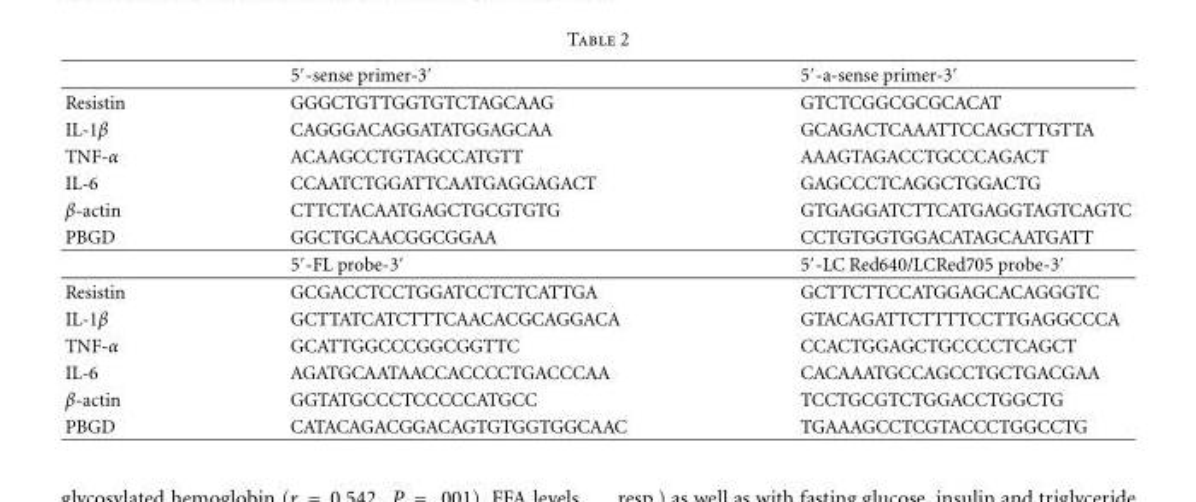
<table><thead><tr><td></td><td>5′-sense primer-3′</td><td>5′-a-sense primer-3′</td></tr></thead><tbody><tr><td>Resistin</td><td>GGGCTGTTGGTGTCTAGCAAG</td><td>GTCTCGGCGCGCACAT</td></tr><tr><td>IL-1β</td><td>CAGGGACAGGATATGGAGCAA</td><td>GCAGACTCAAATTCCAGCTTGTTA</td></tr><tr><td>TNF-α</td><td>ACAAGCCTGTAGCCATGTT</td><td>AAAGTAGACCTGCCCAGACT</td></tr><tr><td>IL-6</td><td>CCAATCTGGATTCAATGAGGAGACT</td><td>GAGCCCTCAGGCTGGACTG</td></tr><tr><td>β-actin</td><td>CTTCTACAATGAGCTGCGTGTG</td><td>GTGAGGATCTTCATGAGGTAGTCAGTC</td></tr><tr><td rowspan="2">PBGD</td><td>GGCTGCAACGGCGGAA</td><td>CCTGTGGTGGACATAGCAATGATT</td></tr><tr><td>5′-FL probe-3′</td><td>5′-LC Red640/LCRed705 probe-3′</td></tr><tr><td>Resistin</td><td>GCGACCTCCTGGATCCTCTCATTGA</td><td>GCTTCTTCCATGGAGCACAGGGTC</td></tr><tr><td>IL-1β</td><td>GCTTATCATCTTTCAACACGCAGGACA</td><td>GTACAGATTCTTTTCCTTGAGGCCCA</td></tr><tr><td>TNF-α</td><td>GCATTGGCCCGGCGGTTC</td><td>CCACTGGAGCTGCCCCTCAGCT</td></tr><tr><td>IL-6</td><td>AGATGCAATAACCACCCCTGACCCAA</td><td>CACAAATGCCAGCCTGCTGACGAA</td></tr><tr><td>β-actin</td><td>GGTATGCCCTCCCCCATGCC</td><td>TCCTGCGTCTGGACCTGGCTG</td></tr><tr><td>PBGD</td><td>CATACAGACGGACAGTGTGGTGGCAAC</td><td>TGAAAGCCTCGTACCCTGGCCTG</td></tr></tbody></table>